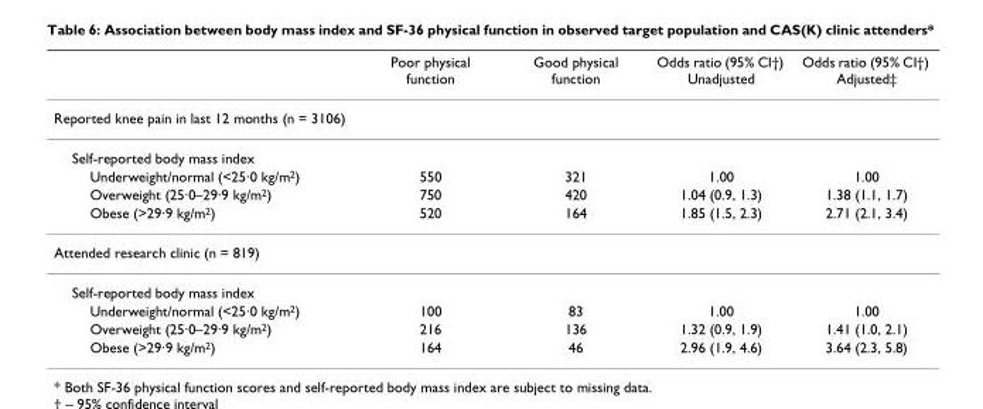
<table><thead><tr><td></td><td>Poor physical function</td><td>Good physical function</td><td>Odds ratio (95% CI†) Unadjusted</td><td>Odds ratio (95% CI†) Adjusted‡</td></tr></thead><tbody><tr><td colspan="5">Reported knee pain in last 12 months (n = 3106)</td></tr><tr><td colspan="5">Self-reported body mass index</td></tr><tr><td>Underweight/normal (&lt;25·0 kg/m2)</td><td>550</td><td>321</td><td>1.00</td><td>1.00</td></tr><tr><td>Overweight (25·0–29·9 kg/m2)</td><td>750</td><td>420</td><td>1.04 (0.9, 1.3)</td><td>1.38 (1.1, 1.7)</td></tr><tr><td>Obese (&gt;29·9 kg/m2)</td><td>520</td><td>164</td><td>1.85 (1.5, 2.3)</td><td>2.71 (2.1, 3.4)</td></tr><tr><td colspan="5">Attended research clinic (n = 819)</td></tr><tr><td colspan="5">Self-reported body mass index</td></tr><tr><td>Underweight/normal (&lt;25·0 kg/m2)</td><td>100</td><td>83</td><td>1.00</td><td>1.00</td></tr><tr><td>Overweight (25·0–29·9 kg/m2)</td><td>216</td><td>136</td><td>1.32 (0.9, 1.9)</td><td>1.41 (1.0, 2.1)</td></tr><tr><td>Obese (&gt;29·9 kg/m2)</td><td>164</td><td>46</td><td>2.96 (1.9, 4.6)</td><td>3.64 (2.3, 5.8)</td></tr></tbody></table>